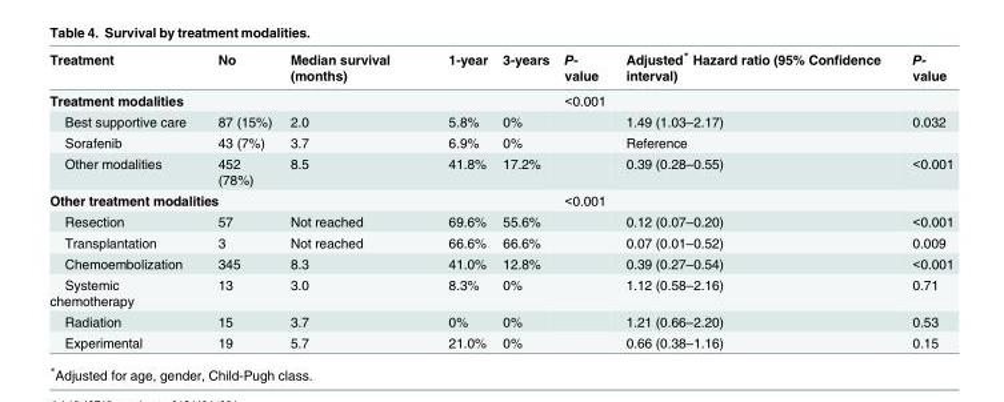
<table><thead><tr><td>Treatment</td><td>No</td><td>Median survival (months)</td><td>1-year</td><td>3-years</td><td>P- value</td><td>Adjusted* Hazard ratio (95% Confidence interval)</td><td>P- value</td></tr></thead><tbody><tr><td>Treatment modalities</td><td></td><td></td><td></td><td></td><td>&lt;0.001</td><td></td><td></td></tr><tr><td>Best supportive care</td><td>87 (15%)</td><td>2.0</td><td>5.8%</td><td>0%</td><td></td><td>1.49 (1.03–2.17)</td><td>0.032</td></tr><tr><td>Sorafenib</td><td>43 (7%)</td><td>3.7</td><td>6.9%</td><td>0%</td><td></td><td>Reference</td><td></td></tr><tr><td>Other modalities</td><td>452 (78%)</td><td>8.5</td><td>41.8%</td><td>17.2%</td><td></td><td>0.39 (0.28–0.55)</td><td>&lt;0.001</td></tr><tr><td colspan="5">Other treatment modalities</td><td>&lt;0.001</td><td></td><td></td></tr><tr><td>Resection</td><td>57</td><td>Not reached</td><td>69.6%</td><td>55.6%</td><td></td><td>0.12 (0.07–0.20)</td><td>&lt;0.001</td></tr><tr><td>Transplantation</td><td>3</td><td>Not reached</td><td>66.6%</td><td>66.6%</td><td></td><td>0.07 (0.01–0.52)</td><td>0.009</td></tr><tr><td>Chemoembolization</td><td>345</td><td>8.3</td><td>41.0%</td><td>12.8%</td><td></td><td>0.39 (0.27–0.54)</td><td>&lt;0.001</td></tr><tr><td>Systemic chemotherapy</td><td>13</td><td>3.0</td><td>8.3%</td><td>0%</td><td></td><td>1.12 (0.58–2.16)</td><td>0.71</td></tr><tr><td>Radiation</td><td>15</td><td>3.7</td><td>0%</td><td>0%</td><td></td><td>1.21 (0.66–2.20)</td><td>0.53</td></tr><tr><td>Experimental</td><td>19</td><td>5.7</td><td>21.0%</td><td>0%</td><td></td><td>0.66 (0.38–1.16)</td><td>0.15</td></tr></tbody></table>